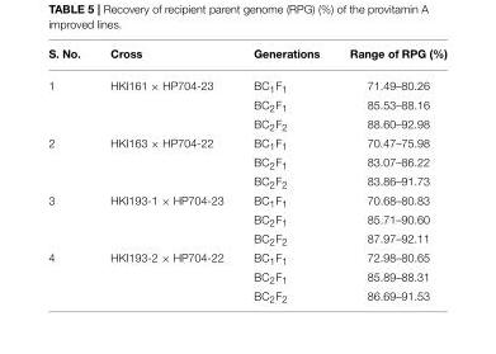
<table><thead><tr><td>S. No.</td><td>Cross</td><td>Generations</td><td>Range of RPG (%)</td></tr></thead><tbody><tr><td rowspan="3">1</td><td>HKI161 × HP704-23</td><td>BC<sub>1</sub>F<sub>1</sub></td><td>71.49–80.26</td></tr><tr><td></td><td>BC<sub>2</sub>F<sub>1</sub></td><td>85.53–88.16</td></tr><tr><td></td><td>BC<sub>2</sub>F<sub>2</sub></td><td>88.60–92.98</td></tr><tr><td rowspan="3">2</td><td>HKI163 × HP704-22</td><td>BC<sub>1</sub>F<sub>1</sub></td><td>70.47–75.98</td></tr><tr><td></td><td>BC<sub>2</sub>F<sub>1</sub></td><td>83.07–86.22</td></tr><tr><td></td><td>BC<sub>2</sub>F<sub>2</sub></td><td>83.86–91.73</td></tr><tr><td rowspan="3">3</td><td>HKI193-1 × HP704-23</td><td>BC<sub>1</sub>F<sub>1</sub></td><td>70.68–80.83</td></tr><tr><td></td><td>BC<sub>2</sub>F<sub>1</sub></td><td>85.71–90.60</td></tr><tr><td></td><td>BC<sub>2</sub>F<sub>2</sub></td><td>87.97–92.11</td></tr><tr><td rowspan="3">4</td><td>HKI193-2 × HP704-22</td><td>BC<sub>1</sub>F<sub>1</sub></td><td>72.98–80.65</td></tr><tr><td></td><td>BC<sub>2</sub>F<sub>1</sub></td><td>85.89–88.31</td></tr><tr><td></td><td>BC<sub>2</sub>F<sub>2</sub></td><td>86.69–91.53</td></tr></tbody></table>